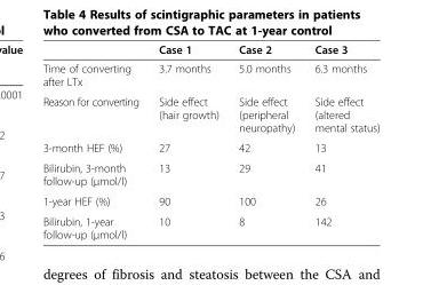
<table><thead><tr><td></td><td>Case 1</td><td>Case 2</td><td>Case 3</td></tr></thead><tbody><tr><td>Time of converting after LTx</td><td>3.7 months</td><td>5.0 months</td><td>6.3 months</td></tr><tr><td>Reason for converting</td><td>Side effect (hair growth)</td><td>Side effect (peripheral neuropathy)</td><td>Side effect (altered mental status)</td></tr><tr><td>3-month HEF (%)</td><td>27</td><td>42</td><td>13</td></tr><tr><td>Bilirubin, 3-month follow-up (μmol/l)</td><td>13</td><td>29</td><td>41</td></tr><tr><td>1-year HEF (%)</td><td>90</td><td>100</td><td>26</td></tr><tr><td>Bilirubin, 1-year follow-up (μmol/l)</td><td>10</td><td>8</td><td>142</td></tr></tbody></table>